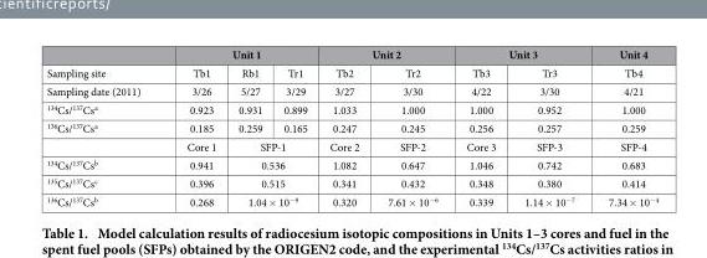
<table><thead><tr><td rowspan="2">Sampling site</td><td colspan="3">Unit 1</td><td colspan="2">Unit 2</td><td colspan="2">Unit 3</td><td rowspan="2">Unit 4 Tb4</td></tr><tr><td>Tb1</td><td>Rb1</td><td>Tr1</td><td>Tb2</td><td>Tr2</td><td>Tb3</td><td>Tr3</td></tr></thead><tbody><tr><td>Sampling date (2011)</td><td>3/26</td><td>5/27</td><td>3/29</td><td>3/27</td><td>3/30</td><td>4/22</td><td>3/30</td><td>4/21</td></tr><tr><td><sup>134</sup>Cs/<sup>137</sup>Cs<sup>a</sup></td><td>0.923</td><td>0.931</td><td>0.899</td><td>1.033</td><td>1.000</td><td>1.000</td><td>0.952</td><td>1.000</td></tr><tr><td rowspan="2"><sup>136</sup>Cs/<sup>137</sup>Cs<sup>a</sup></td><td>0.185</td><td>0.259</td><td>0.165</td><td>0.247</td><td>0.245</td><td>0.256</td><td>0.257</td><td>0.259</td></tr><tr><td>Core 1</td><td colspan="2">SFP-1</td><td>Core 2</td><td>SFP-2</td><td>Core 3</td><td>SFP-3</td><td>SFP-4</td></tr><tr><td><sup>134</sup>Cs/<sup>137</sup>Cs<sup>b</sup></td><td>0.941</td><td colspan="2">0.536</td><td>1.082</td><td>0.647</td><td>1.046</td><td>0.742</td><td>0.683</td></tr><tr><td><sup>135</sup>Cs/<sup>137</sup>Cs<sup>c</sup></td><td>0.396</td><td colspan="2">0.515</td><td>0.341</td><td>0.432</td><td>0.348</td><td>0.380</td><td>0.414</td></tr><tr><td><sup>136</sup>Cs/<sup>137</sup>Cs<sup>b</sup></td><td>0.268</td><td colspan="2">1.04 × 10<sup>−9</sup></td><td>0.320</td><td>7.61 × 10<sup>−6</sup></td><td>0.339</td><td>1.14 × 10<sup>−7</sup></td><td>7.34 × 10<sup>−4</sup></td></tr></tbody></table>